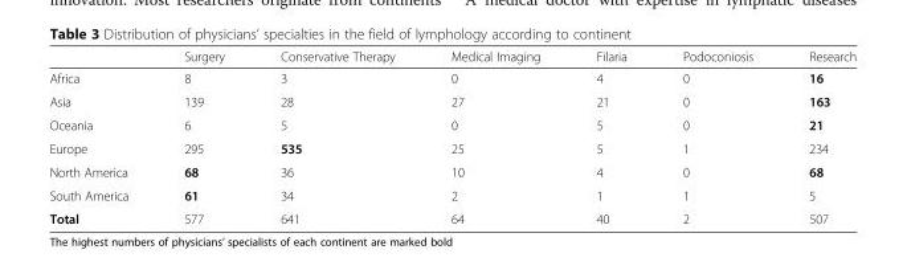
<table><thead><tr><td></td><td>Surgery</td><td>Conservative Therapy</td><td>Medical Imaging</td><td>Filaria</td><td>Podoconiosis</td><td>Research</td></tr></thead><tbody><tr><td>Africa</td><td>8</td><td>3</td><td>0</td><td>4</td><td>0</td><td>16</td></tr><tr><td>Asia</td><td>139</td><td>28</td><td>27</td><td>21</td><td>0</td><td>163</td></tr><tr><td>Oceania</td><td>6</td><td>5</td><td>0</td><td>5</td><td>0</td><td>21</td></tr><tr><td>Europe</td><td>295</td><td>535</td><td>25</td><td>5</td><td>1</td><td>234</td></tr><tr><td>North America</td><td>68</td><td>36</td><td>10</td><td>4</td><td>0</td><td>68</td></tr><tr><td>South America</td><td>61</td><td>34</td><td>2</td><td>1</td><td>1</td><td>5</td></tr><tr><td>Total</td><td>577</td><td>641</td><td>64</td><td>40</td><td>2</td><td>507</td></tr></tbody></table>